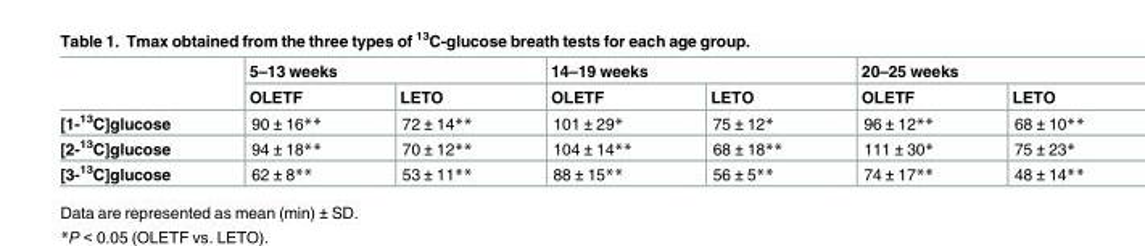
<table><thead><tr><td rowspan="2"></td><td colspan="2">5–13 weeks</td><td colspan="2">14–19 weeks</td><td colspan="2">20–25 weeks</td></tr><tr><td>OLETF</td><td>LETO</td><td>OLETF</td><td>LETO</td><td>OLETF</td><td>LETO</td></tr></thead><tbody><tr><td>[1-<sup>13</sup>C]glucose</td><td>90 ± 16**</td><td>72 ± 14**</td><td>101 ± 29*</td><td>75 ± 12*</td><td>96 ± 12**</td><td>68 ± 10**</td></tr><tr><td>[2-<sup>13</sup>C]glucose</td><td>94 ± 18**</td><td>70 ± 12**</td><td>104 ± 14**</td><td>68 ± 18**</td><td>111 ± 30*</td><td>75 ± 23*</td></tr><tr><td>[3-<sup>13</sup>C]glucose</td><td>62 ± 8**</td><td>53 ± 11**</td><td>88 ± 15**</td><td>56 ± 5**</td><td>74 ± 17**</td><td>48 ± 14**</td></tr></tbody></table>